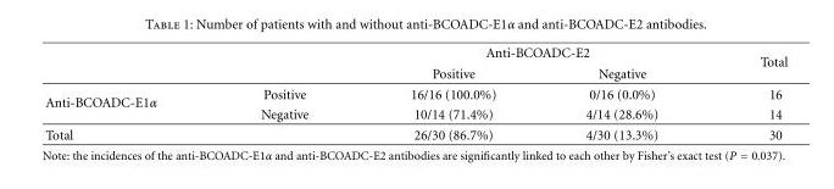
<table><thead><tr><td rowspan="2"></td><td rowspan="2"></td><td colspan="2">Anti-BCOADC-E2</td><td rowspan="2">Total</td></tr><tr><td>Positive</td><td>Negative</td></tr></thead><tbody><tr><td rowspan="2">Anti-BCOADC-E1α</td><td>Positive</td><td>16/16 (100.0%)</td><td>0/16 (0.0%)</td><td>16</td></tr><tr><td>Negative</td><td>10/14 (71.4%)</td><td>4/14 (28.6%)</td><td>14</td></tr><tr><td>Total</td><td></td><td>26/30 (86.7%)</td><td>4/30 (13.3%)</td><td>30</td></tr></tbody></table>